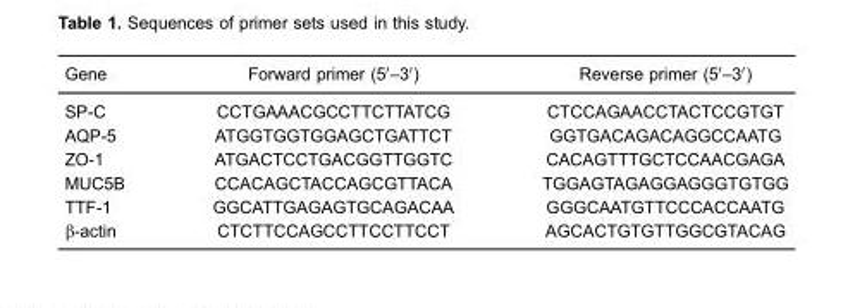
<table><thead><tr><td>Gene</td><td>Forward primer (5′–3′)</td><td>Reverse primer (5′–3′)</td></tr></thead><tbody><tr><td>SP-C</td><td>CCTGAAACGCCTTCTTATCG</td><td>CTCCAGAACCTACTCCGTGT</td></tr><tr><td>AQP-5</td><td>ATGGTGGTGGAGCTGATTCT</td><td>GGTGACAGACAGGCCAATG</td></tr><tr><td>ZO-1</td><td>ATGACTCCTGACGGTTGGTC</td><td>CACAGTTTGCTCCAACGAGA</td></tr><tr><td>MUC5B</td><td>CCACAGCTACCAGCGTTACA</td><td>TGGAGTAGAGGAGGGTGTGG</td></tr><tr><td>TTF-1</td><td>GGCATTGAGAGTGCAGACAA</td><td>GGGCAATGTTCCCACCAATG</td></tr><tr><td>β-actin</td><td>CTCTTCCAGCCTTCCTTCCT</td><td>AGCACTGTGTTGGCGTACAG</td></tr></tbody></table>